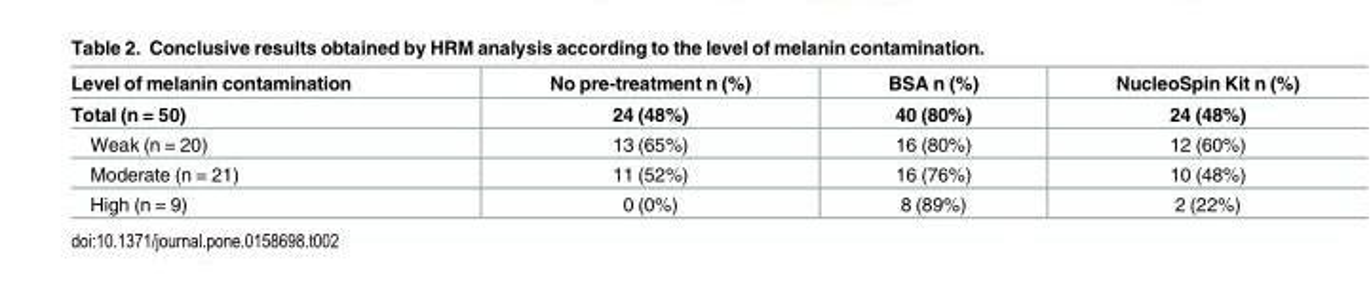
<table><thead><tr><td>Level of melanin contamination</td><td>No pre-treatment n (%)</td><td>BSA n (%)</td><td>NucleoSpin Kit n (%)</td></tr></thead><tbody><tr><td>Total (n = 50)</td><td>24 (48%)</td><td>40 (80%)</td><td>24 (48%)</td></tr><tr><td>Weak (n = 20)</td><td>13 (65%)</td><td>16 (80%)</td><td>12 (60%)</td></tr><tr><td>Moderate (n = 21)</td><td>11 (52%)</td><td>16 (76%)</td><td>10 (48%)</td></tr><tr><td>High (n = 9)</td><td>0 (0%)</td><td>8 (89%)</td><td>2 (22%)</td></tr></tbody></table>